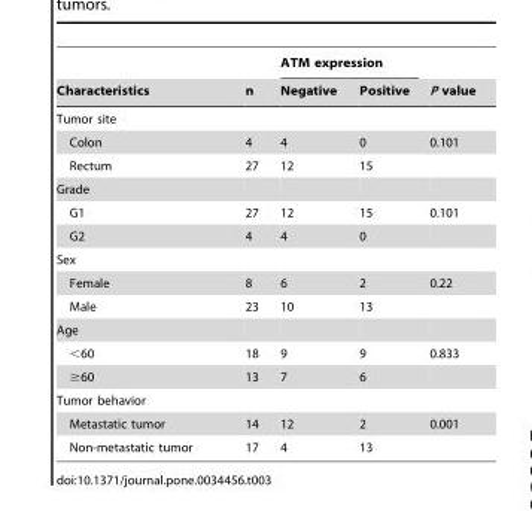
<table><thead><tr><td rowspan="2">Characteristics</td><td rowspan="2">n</td><td colspan="2">ATM expression</td><td rowspan="2">P value</td></tr><tr><td>Negative</td><td>Positive</td></tr></thead><tbody><tr><td colspan="5">Tumor site</td></tr><tr><td>Colon</td><td>4</td><td>4</td><td>0</td><td>0.101</td></tr><tr><td>Rectum</td><td>27</td><td>12</td><td>15</td><td></td></tr><tr><td colspan="5">Grade</td></tr><tr><td>G1</td><td>27</td><td>12</td><td>15</td><td>0.101</td></tr><tr><td>G2</td><td>4</td><td>4</td><td>0</td><td></td></tr><tr><td colspan="5">Sex</td></tr><tr><td>Female</td><td>8</td><td>6</td><td>2</td><td>0.22</td></tr><tr><td>Male</td><td>23</td><td>10</td><td>13</td><td></td></tr><tr><td colspan="5">Age</td></tr><tr><td>&lt;60</td><td>18</td><td>9</td><td>9</td><td>0.833</td></tr><tr><td>≥60</td><td>13</td><td>7</td><td>6</td><td></td></tr><tr><td colspan="5">Tumor behavior</td></tr><tr><td>Metastatic tumor</td><td>14</td><td>12</td><td>2</td><td>0.001</td></tr><tr><td>Non-metastatic tumor</td><td>17</td><td>4</td><td>13</td><td></td></tr></tbody></table>